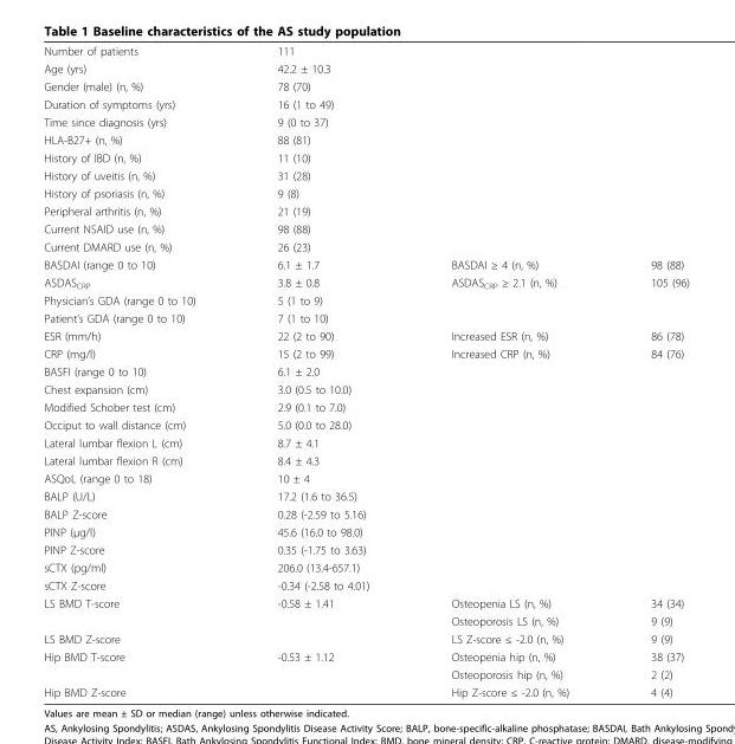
<table><tbody><tr><td>Number of patients</td><td>111</td><td></td><td></td></tr><tr><td>Age (yrs)</td><td>42.2 ± 10.3</td><td></td><td></td></tr><tr><td>Gender (male) (n, %)</td><td>78 (70)</td><td></td><td></td></tr><tr><td>Duration of symptoms (yrs)</td><td>16 (1 to 49)</td><td></td><td></td></tr><tr><td>Time since diagnosis (yrs)</td><td>9 (0 to 37)</td><td></td><td></td></tr><tr><td>HLA-B27+ (n, %)</td><td>88 (81)</td><td></td><td></td></tr><tr><td>History of IBD (n, %)</td><td>11 (10)</td><td></td><td></td></tr><tr><td>History of uveitis (n, %)</td><td>31 (28)</td><td></td><td></td></tr><tr><td>History of psoriasis (n, %)</td><td>9 (8)</td><td></td><td></td></tr><tr><td>Peripheral arthritis (n, %)</td><td>21 (19)</td><td></td><td></td></tr><tr><td>Current NSAID use (n, %)</td><td>98 (88)</td><td></td><td></td></tr><tr><td>Current DMARD use (n, %)</td><td>26 (23)</td><td></td><td></td></tr><tr><td>BASDAI (range 0 to 10)</td><td>6.1 ± 1.7</td><td>BASDAI ≥ 4 (n, %)</td><td>98 (88)</td></tr><tr><td>ASDAS<sub>CRP</sub></td><td>3.8 ± 0.8</td><td>ASDAS<sub>CRP</sub> ≥ 2.1 (n, %)</td><td>105 (96)</td></tr><tr><td>Physician’s GDA (range 0 to 10)</td><td>5 (1 to 9)</td><td></td><td></td></tr><tr><td>Patient’s GDA (range 0 to 10)</td><td>7 (1 to 10)</td><td></td><td></td></tr><tr><td>ESR (mm/h)</td><td>22 (2 to 90)</td><td>Increased ESR (n, %)</td><td>86 (78)</td></tr><tr><td>CRP (mg/l)</td><td>15 (2 to 99)</td><td>Increased CRP (n, %)</td><td>84 (76)</td></tr><tr><td>BASFI (range 0 to 10)</td><td>6.1 ± 2.0</td><td></td><td></td></tr><tr><td>Chest expansion (cm)</td><td>3.0 (0.5 to 10.0)</td><td></td><td></td></tr><tr><td>Modified Schober test (cm)</td><td>2.9 (0.1 to 7.0)</td><td></td><td></td></tr><tr><td>Occiput to wall distance (cm)</td><td>5.0 (0.0 to 28.0)</td><td></td><td></td></tr><tr><td>Lateral lumbar flexion L (cm)</td><td>8.7 ± 4.1</td><td></td><td></td></tr><tr><td>Lateral lumbar flexion R (cm)</td><td>8.4 ± 4.3</td><td></td><td></td></tr><tr><td>ASQoL (range 0 to 18)</td><td>10 ± 4</td><td></td><td></td></tr><tr><td>BALP (U/L)</td><td>17.2 (1.6 to 36.5)</td><td></td><td></td></tr><tr><td>BALP Z-score</td><td>0.28 (-2.59 to 5.16)</td><td></td><td></td></tr><tr><td>PINP (μg/l)</td><td>45.6 (16.0 to 98.0)</td><td></td><td></td></tr><tr><td>PINP Z-score</td><td>0.35 (-1.75 to 3.63)</td><td></td><td></td></tr><tr><td>sCTX (pg/ml)</td><td>206.0 (13.4-657.1)</td><td></td><td></td></tr><tr><td>sCTX Z-score</td><td>-0.34 (-2.58 to 4.01)</td><td></td><td></td></tr><tr><td rowspan="2">LS BMD T-score</td><td>-0.58 ± 1.41</td><td>Osteopenia LS (n, %)</td><td>34 (34)</td></tr><tr><td></td><td>Osteoporosis LS (n, %)</td><td>9 (9)</td></tr><tr><td>LS BMD Z-score</td><td></td><td>LS Z-score ≤ -2.0 (n, %)</td><td>9 (9)</td></tr><tr><td rowspan="2">Hip BMD T-score</td><td>-0.53 ± 1.12</td><td>Osteopenia hip (n, %)</td><td>38 (37)</td></tr><tr><td></td><td>Osteoporosis hip (n, %)</td><td>2 (2)</td></tr><tr><td>Hip BMD Z-score</td><td></td><td>Hip Z-score ≤ -2.0 (n, %)</td><td>4 (4)</td></tr></tbody></table>